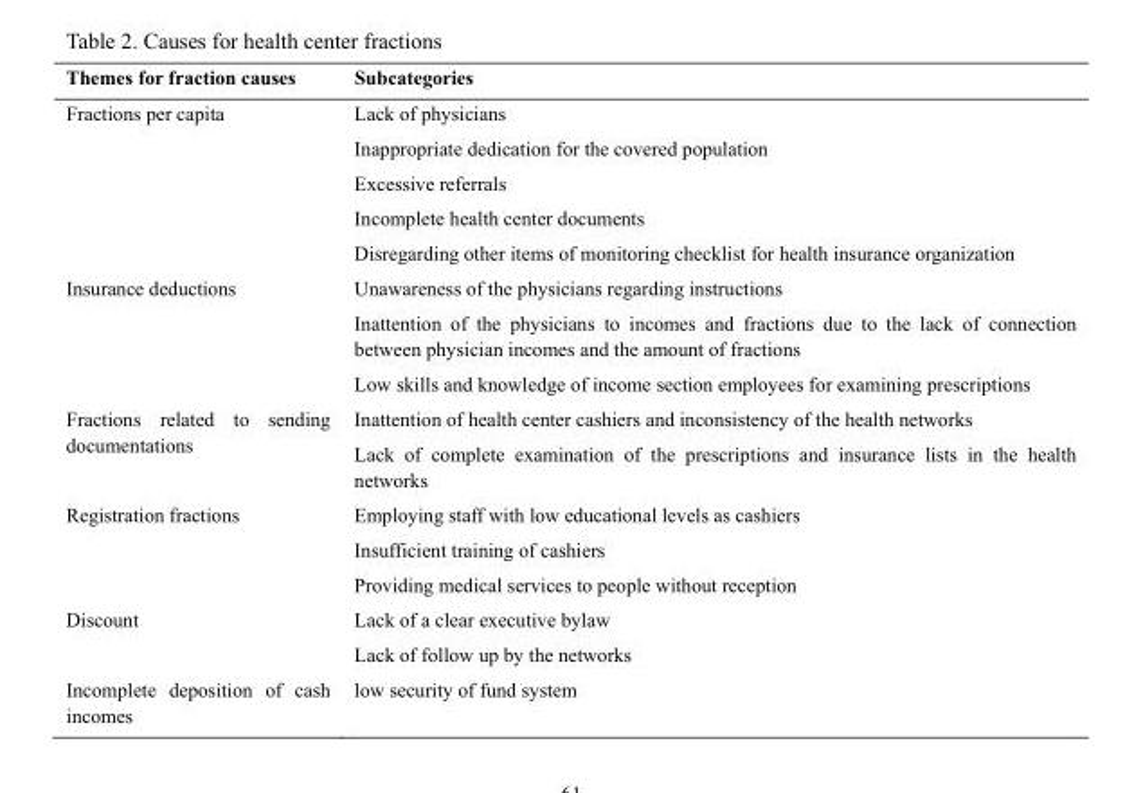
<table><thead><tr><td>Themes for fraction causes</td><td>Subcategories</td></tr></thead><tbody><tr><td rowspan="5">Fractions per capita</td><td>Lack of physicians</td></tr><tr><td>Inappropriate dedication for the covered population</td></tr><tr><td>Excessive referrals</td></tr><tr><td>Incomplete health center documents</td></tr><tr><td>Disregarding other items of monitoring checklist for health insurance organization</td></tr><tr><td rowspan="3">Insurance deductions</td><td>Unawareness of the physicians regarding instructions</td></tr><tr><td>Inattention of the physicians to incomes and fractions due to the lack of connection between physician incomes and the amount of fractions</td></tr><tr><td>Low skills and knowledge of income section employees for examining prescriptions</td></tr><tr><td rowspan="2">Fractions related to sending documentations</td><td>Inattention of health center cashiers and inconsistency of the health networks</td></tr><tr><td>Lack of complete examination of the prescriptions and insurance lists in the health networks</td></tr><tr><td rowspan="3">Registration fractions</td><td>Employing staff with low educational levels as cashiers</td></tr><tr><td>Insufficient training of cashiers</td></tr><tr><td>Providing medical services to people without reception</td></tr><tr><td rowspan="2">Discount</td><td>Lack of a clear executive bylaw</td></tr><tr><td>Lack of follow up by the networks</td></tr><tr><td>Incomplete deposition of cash incomes</td><td>low security of fund system</td></tr></tbody></table>